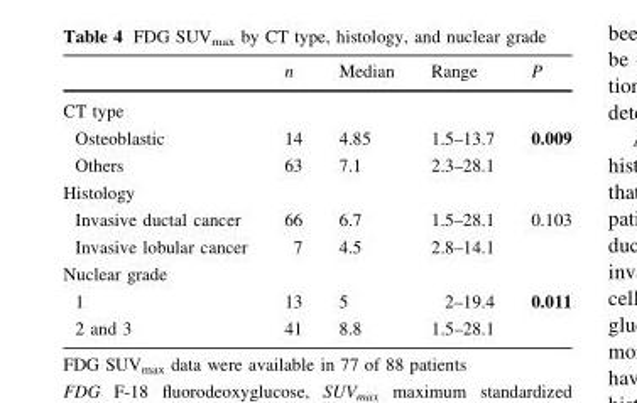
<table><thead><tr><td></td><td>n</td><td>Median</td><td>Range</td><td>P</td></tr></thead><tbody><tr><td colspan="5">CT type</td></tr><tr><td>Osteoblastic</td><td>14</td><td>4.85</td><td>1.5–13.7</td><td>0.009</td></tr><tr><td>Others</td><td>63</td><td>7.1</td><td>2.3–28.1</td><td></td></tr><tr><td colspan="5">Histology</td></tr><tr><td>Invasive ductal cancer</td><td>66</td><td>6.7</td><td>1.5–28.1</td><td>0.103</td></tr><tr><td>Invasive lobular cancer</td><td>7</td><td>4.5</td><td>2.8–14.1</td><td></td></tr><tr><td colspan="5">Nuclear grade</td></tr><tr><td>1</td><td>13</td><td>5</td><td>2–19.4</td><td>0.011</td></tr><tr><td>2 and 3</td><td>41</td><td>8.8</td><td>1.5–28.1</td><td></td></tr></tbody></table>